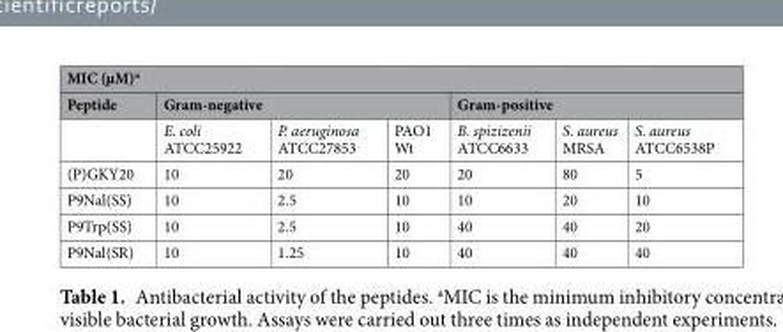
<table><thead><tr><td colspan="7">MIC (µM)<sup>a</sup></td></tr><tr><td rowspan="2">Peptide</td><td colspan="3">Gram-negative</td><td colspan="3">Gram-positive</td></tr><tr><td>E. coli ATCC25922</td><td>P. aeruginosa ATCC27853</td><td>PAO1 Wt</td><td>B. spizizenii ATCC6633</td><td>S. aureus MRSA</td><td>S. aureus ATCC6538P</td></tr></thead><tbody><tr><td>(P)GKY20</td><td>10</td><td>20</td><td>20</td><td>20</td><td>80</td><td>5</td></tr><tr><td>P9Nal(SS)</td><td>10</td><td>2.5</td><td>10</td><td>10</td><td>20</td><td>10</td></tr><tr><td>P9Trp(SS)</td><td>10</td><td>2.5</td><td>10</td><td>40</td><td>40</td><td>20</td></tr><tr><td>P9Nal(SR)</td><td>10</td><td>1.25</td><td>10</td><td>40</td><td>40</td><td>40</td></tr></tbody></table>